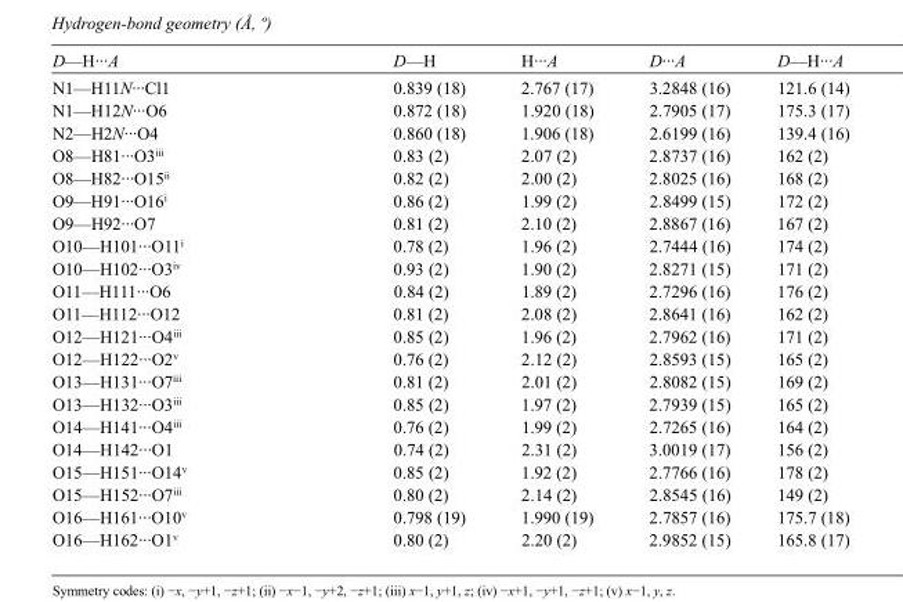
<table><tbody><tr><td>D—H···A</td><td>D—H</td><td>H···A</td><td>D···A</td><td>D—H···A</td></tr><tr><td>N1—H11N···Cl1</td><td>0.839 (18)</td><td>2.767 (17)</td><td>3.2848 (16)</td><td>121.6 (14)</td></tr><tr><td>N1—H12N···O6</td><td>0.872 (18)</td><td>1.920 (18)</td><td>2.7905 (17)</td><td>175.3 (17)</td></tr><tr><td>N2—H2N···O4</td><td>0.860 (18)</td><td>1.906 (18)</td><td>2.6199 (16)</td><td>139.4 (16)</td></tr><tr><td>O8—H81···O3<sup>iii</sup></td><td>0.83 (2)</td><td>2.07 (2)</td><td>2.8737 (16)</td><td>162 (2)</td></tr><tr><td>O8—H82···O15<sup>ii</sup></td><td>0.82 (2)</td><td>2.00 (2)</td><td>2.8025 (16)</td><td>168 (2)</td></tr><tr><td>O9—H91···O16<sup>i</sup></td><td>0.86 (2)</td><td>1.99 (2)</td><td>2.8499 (15)</td><td>172 (2)</td></tr><tr><td>O9—H92···O7</td><td>0.81 (2)</td><td>2.10 (2)</td><td>2.8867 (16)</td><td>167 (2)</td></tr><tr><td>O10—H101···O11<sup>i</sup></td><td>0.78 (2)</td><td>1.96 (2)</td><td>2.7444 (16)</td><td>174 (2)</td></tr><tr><td>O10—H102···O3<sup>iv</sup></td><td>0.93 (2)</td><td>1.90 (2)</td><td>2.8271 (15)</td><td>171 (2)</td></tr><tr><td>O11—H111···O6</td><td>0.84 (2)</td><td>1.89 (2)</td><td>2.7296 (16)</td><td>176 (2)</td></tr><tr><td>O11—H112···O12</td><td>0.81 (2)</td><td>2.08 (2)</td><td>2.8641 (16)</td><td>162 (2)</td></tr><tr><td>O12—H121···O4<sup>iii</sup></td><td>0.85 (2)</td><td>1.96 (2)</td><td>2.7962 (16)</td><td>171 (2)</td></tr><tr><td>O12—H122···O2<sup>v</sup></td><td>0.76 (2)</td><td>2.12 (2)</td><td>2.8593 (15)</td><td>165 (2)</td></tr><tr><td>O13—H131···O7<sup>iii</sup></td><td>0.81 (2)</td><td>2.01 (2)</td><td>2.8082 (15)</td><td>169 (2)</td></tr><tr><td>O13—H132···O3<sup>iii</sup></td><td>0.85 (2)</td><td>1.97 (2)</td><td>2.7939 (15)</td><td>165 (2)</td></tr><tr><td>O14—H141···O4<sup>iii</sup></td><td>0.76 (2)</td><td>1.99 (2)</td><td>2.7265 (16)</td><td>164 (2)</td></tr><tr><td>O14—H142···O1</td><td>0.74 (2)</td><td>2.31 (2)</td><td>3.0019 (17)</td><td>156 (2)</td></tr><tr><td>O15—H151···O14<sup>v</sup></td><td>0.85 (2)</td><td>1.92 (2)</td><td>2.7766 (16)</td><td>178 (2)</td></tr><tr><td>O15—H152···O7<sup>iii</sup></td><td>0.80 (2)</td><td>2.14 (2)</td><td>2.8545 (16)</td><td>149 (2)</td></tr><tr><td>O16—H161···O10<sup>v</sup></td><td>0.798 (19)</td><td>1.990 (19)</td><td>2.7857 (16)</td><td>175.7 (18)</td></tr><tr><td>O16—H162···O1<sup>v</sup></td><td>0.80 (2)</td><td>2.20 (2)</td><td>2.9852 (15)</td><td>165.8 (17)</td></tr></tbody></table>